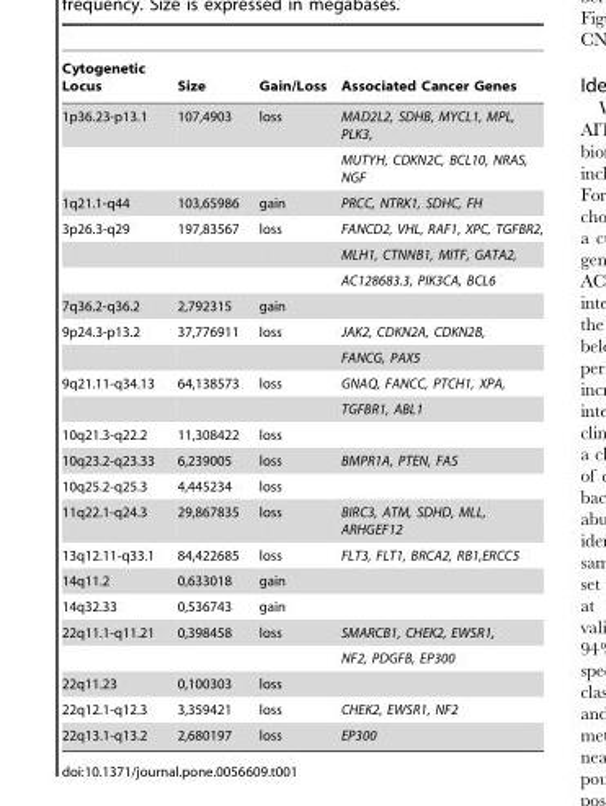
<table><thead><tr><td>Cytogenetic Locus</td><td>Size</td><td>Gain/Loss</td><td>Associated Cancer Genes</td></tr></thead><tbody><tr><td rowspan="2">1p36.23-p13.1</td><td>107,4903</td><td>loss</td><td>MAD2L2, SDHB, MYCL1, MPL, PLK3,</td></tr><tr><td></td><td></td><td>MUTYH, CDKN2C, BCL10, NRAS, NGF</td></tr><tr><td>1q21.1-q44</td><td>103,65986</td><td>gain</td><td>PRCC, NTRK1, SDHC, FH</td></tr><tr><td rowspan="3">3p26.3-q29</td><td>197,83567</td><td>loss</td><td>FANCD2, VHL, RAF1, XPC, TGFBR2,</td></tr><tr><td></td><td></td><td>MLH1, CTNNB1, MITF, GATA2,</td></tr><tr><td></td><td></td><td>AC128683.3, PIK3CA, BCL6</td></tr><tr><td>7q36.2-q36.2</td><td>2,792315</td><td>gain</td><td></td></tr><tr><td rowspan="2">9p24.3-p13.2</td><td>37,776911</td><td>loss</td><td>JAK2, CDKN2A, CDKN2B,</td></tr><tr><td></td><td></td><td>FANCG, PAX5</td></tr><tr><td rowspan="2">9q21.11-q34.13</td><td>64,138573</td><td>loss</td><td>GNAQ, FANCC, PTCH1, XPA,</td></tr><tr><td></td><td></td><td>TGFBR1, ABL1</td></tr><tr><td>10q21.3-q22.2</td><td>11,308422</td><td>loss</td><td></td></tr><tr><td>10q23.2-q23.33</td><td>6,239005</td><td>loss</td><td>BMPR1A, PTEN, FAS</td></tr><tr><td>10q25.2-q25.3</td><td>4,445234</td><td>loss</td><td></td></tr><tr><td>11q22.1-q24.3</td><td>29,867835</td><td>loss</td><td>BIRC3, ATM, SDHD, MLL, ARHGEF12</td></tr><tr><td>13q12.11-q33.1</td><td>84,422685</td><td>loss</td><td>FLT3, FLT1, BRCA2, RB1,ERCC5</td></tr><tr><td>14q11.2</td><td>0,633018</td><td>gain</td><td></td></tr><tr><td>14q32.33</td><td>0,536743</td><td>gain</td><td></td></tr><tr><td rowspan="2">22q11.1-q11.21</td><td>0,398458</td><td>loss</td><td>SMARCB1, CHEK2, EWSR1,</td></tr><tr><td></td><td></td><td>NF2, PDGFB, EP300</td></tr><tr><td>22q11.23</td><td>0,100303</td><td>loss</td><td></td></tr><tr><td>22q12.1-q12.3</td><td>3,359421</td><td>loss</td><td>CHEK2, EWSR1, NF2</td></tr><tr><td>22q13.1-q13.2</td><td>2,680197</td><td>loss</td><td>EP300</td></tr></tbody></table>